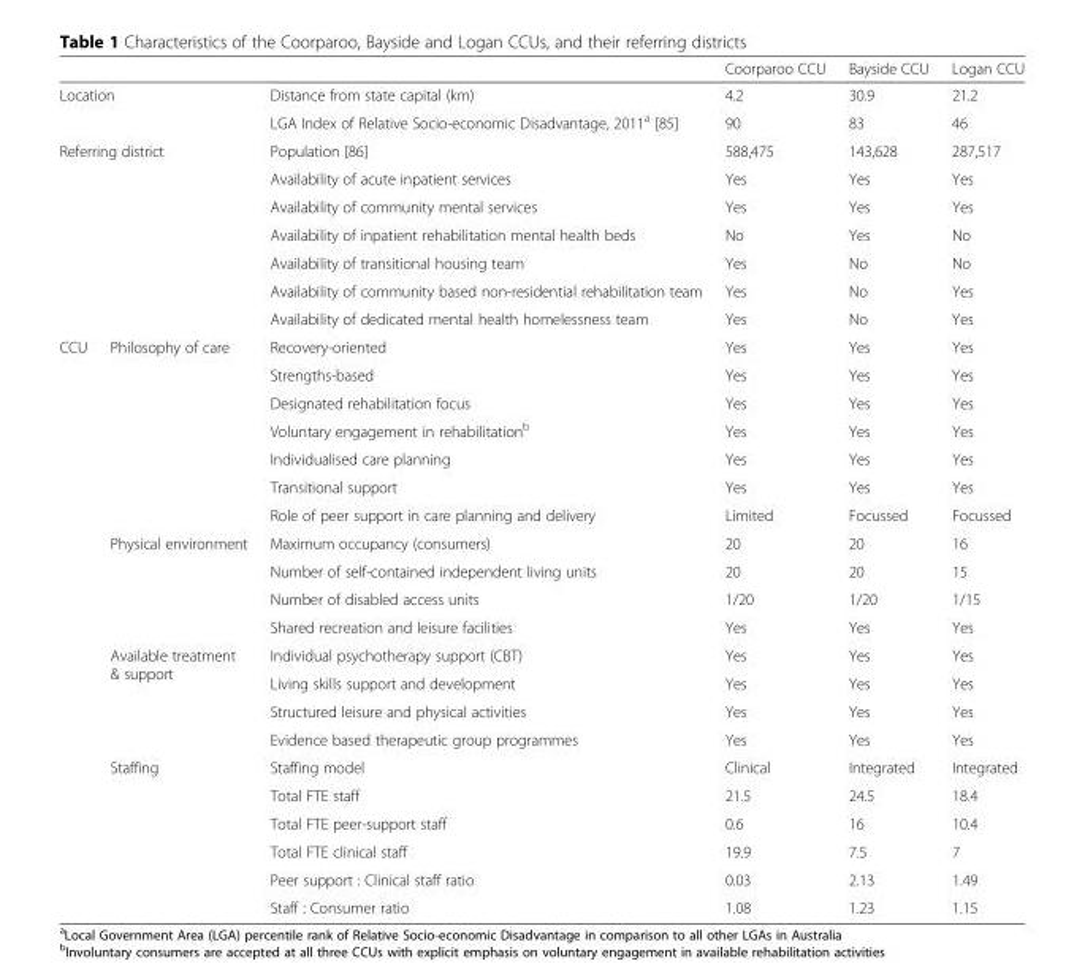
<table><thead><tr><td></td><td></td><td></td><td>Coorparoo CCU</td><td>Bayside CCU</td><td>Logan CCU</td></tr></thead><tbody><tr><td rowspan="2" colspan="2">Location</td><td>Distance from state capital (km)</td><td>4.2</td><td>30.9</td><td>21.2</td></tr><tr><td>LGA Index of Relative Socio-economic Disadvantage, 2011<sup>a</sup> [85]</td><td>90</td><td>83</td><td>46</td></tr><tr><td rowspan="7" colspan="2">Referring district</td><td>Population [86]</td><td>588,475</td><td>143,628</td><td>287,517</td></tr><tr><td>Availability of acute inpatient services</td><td>Yes</td><td>Yes</td><td>Yes</td></tr><tr><td>Availability of community mental services</td><td>Yes</td><td>Yes</td><td>Yes</td></tr><tr><td>Availability of inpatient rehabilitation mental health beds</td><td>No</td><td>Yes</td><td>No</td></tr><tr><td>Availability of transitional housing team</td><td>Yes</td><td>No</td><td>No</td></tr><tr><td>Availability of community based non-residential rehabilitation team</td><td>Yes</td><td>No</td><td>Yes</td></tr><tr><td>Availability of dedicated mental health homelessness team</td><td>Yes</td><td>No</td><td>Yes</td></tr><tr><td rowspan="21">CCU</td><td rowspan="7">Philosophy of care</td><td>Recovery-oriented</td><td>Yes</td><td>Yes</td><td>Yes</td></tr><tr><td>Strengths-based</td><td>Yes</td><td>Yes</td><td>Yes</td></tr><tr><td>Designated rehabilitation focus</td><td>Yes</td><td>Yes</td><td>Yes</td></tr><tr><td>Voluntary engagement in rehabilitation<sup>b</sup></td><td>Yes</td><td>Yes</td><td>Yes</td></tr><tr><td>Individualised care planning</td><td>Yes</td><td>Yes</td><td>Yes</td></tr><tr><td>Transitional support</td><td>Yes</td><td>Yes</td><td>Yes</td></tr><tr><td>Role of peer support in care planning and delivery</td><td>Limited</td><td>Focussed</td><td>Focussed</td></tr><tr><td rowspan="4">Physical environment</td><td>Maximum occupancy (consumers)</td><td>20</td><td>20</td><td>16</td></tr><tr><td>Number of self-contained independent living units</td><td>20</td><td>20</td><td>15</td></tr><tr><td>Number of disabled access units</td><td>1/20</td><td>1/20</td><td>1/15</td></tr><tr><td>Shared recreation and leisure facilities</td><td>Yes</td><td>Yes</td><td>Yes</td></tr><tr><td rowspan="4">Available treatment &amp; support</td><td>Individual psychotherapy support (CBT)</td><td>Yes</td><td>Yes</td><td>Yes</td></tr><tr><td>Living skills support and development</td><td>Yes</td><td>Yes</td><td>Yes</td></tr><tr><td>Structured leisure and physical activities</td><td>Yes</td><td>Yes</td><td>Yes</td></tr><tr><td>Evidence based therapeutic group programmes</td><td>Yes</td><td>Yes</td><td>Yes</td></tr><tr><td rowspan="6">Staffing</td><td>Staffing model</td><td>Clinical</td><td>Integrated</td><td>Integrated</td></tr><tr><td>Total FTE staff</td><td>21.5</td><td>24.5</td><td>18.4</td></tr><tr><td>Total FTE peer-support staff</td><td>0.6</td><td>16</td><td>10.4</td></tr><tr><td>Total FTE clinical staff</td><td>19.9</td><td>7.5</td><td>7</td></tr><tr><td>Peer support : Clinical staff ratio</td><td>0.03</td><td>2.13</td><td>1.49</td></tr><tr><td>Staff : Consumer ratio</td><td>1.08</td><td>1.23</td><td>1.15</td></tr></tbody></table>